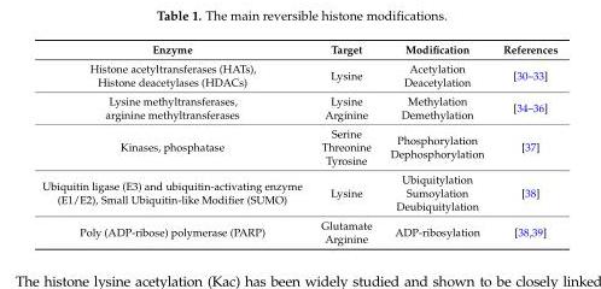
<table><thead><tr><td>Enzyme</td><td>Target</td><td>Modification</td><td>References</td></tr></thead><tbody><tr><td>Histone acetyltransferases (HATs), Histone deacetylases (HDACs)</td><td>Lysine</td><td>Acetylation Deacetylation</td><td>[30–33]</td></tr><tr><td>Lysine methyltransferases, arginine methyltransferases</td><td>Lysine Arginine</td><td>Methylation Demethylation</td><td>[34–36]</td></tr><tr><td>Kinases, phosphatase</td><td>Serine Threonine Tyrosine</td><td>Phosphorylation Dephosphorylation</td><td>[37]</td></tr><tr><td>Ubiquitin ligase (E3) and ubiquitin-activating enzyme (E1/E2), Small Ubiquitin-like Modifier (SUMO)</td><td>Lysine</td><td>Ubiquitylation Sumoylation Deubiquitylation</td><td>[38]</td></tr><tr><td>Poly (ADP-ribose) polymerase (PARP)</td><td>Glutamate Arginine</td><td>ADP-ribosylation</td><td>[38,39]</td></tr></tbody></table>